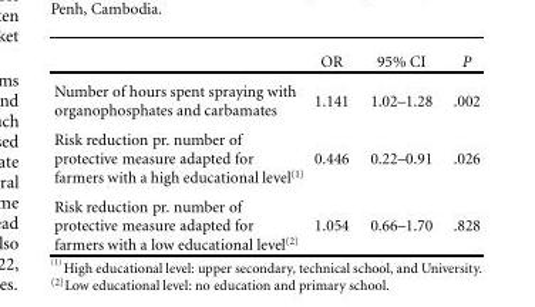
<table><thead><tr><td></td><td>OR</td><td>95% CI</td><td>P</td></tr></thead><tbody><tr><td>Number of hours spent spraying with organophosphates and carbamates</td><td>1.141</td><td>1.02–1.28</td><td>.002</td></tr><tr><td>Risk reduction pr. number of protective measure adapted for farmers with a high educational level<sup>(1)</sup></td><td>0.446</td><td>0.22–0.91</td><td>.026</td></tr><tr><td>Risk reduction pr. number of protective measure adapted for farmers with a low educational level<sup>(2)</sup></td><td>1.054</td><td>0.66–1.70</td><td>.828</td></tr></tbody></table>